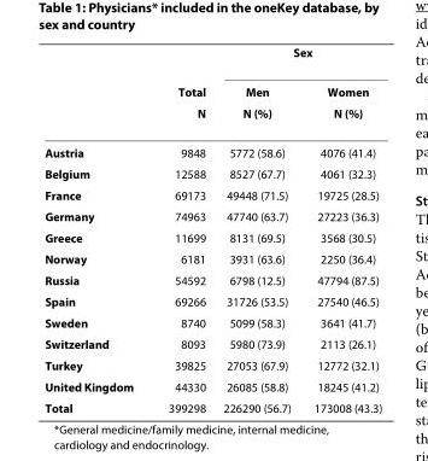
<table><thead><tr><td rowspan="3"></td><td rowspan="3">Total N</td><td colspan="2">Sex</td></tr><tr><td rowspan="2">Men N (%)</td><td rowspan="2">Women N (%)</td></tr><tr></tr></thead><tbody><tr><td>Austria</td><td>9848</td><td>5772 (58.6)</td><td>4076 (41.4)</td></tr><tr><td>Belgium</td><td>12588</td><td>8527 (67.7)</td><td>4061 (32.3)</td></tr><tr><td>France</td><td>69173</td><td>49448 (71.5)</td><td>19725 (28.5)</td></tr><tr><td>Germany</td><td>74963</td><td>47740 (63.7)</td><td>27223 (36.3)</td></tr><tr><td>Greece</td><td>11699</td><td>8131 (69.5)</td><td>3568 (30.5)</td></tr><tr><td>Norway</td><td>6181</td><td>3931 (63.6)</td><td>2250 (36.4)</td></tr><tr><td>Russia</td><td>54592</td><td>6798 (12.5)</td><td>47794 (87.5)</td></tr><tr><td>Spain</td><td>69266</td><td>31726 (53.5)</td><td>27540 (46.5)</td></tr><tr><td>Sweden</td><td>8740</td><td>5099 (58.3)</td><td>3641 (41.7)</td></tr><tr><td>Switzerland</td><td>8093</td><td>5980 (73.9)</td><td>2113 (26.1)</td></tr><tr><td>Turkey</td><td>39825</td><td>27053 (67.9)</td><td>12772 (32.1)</td></tr><tr><td>United Kingdom</td><td>44330</td><td>26085 (58.8)</td><td>18245 (41.2)</td></tr><tr><td>Total</td><td>399298</td><td>226290 (56.7)</td><td>173008 (43.3)</td></tr></tbody></table>